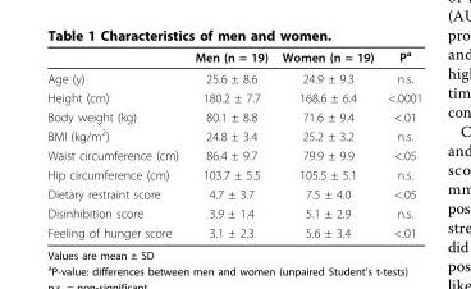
<table><thead><tr><td></td><td>Men (n = 19)</td><td>Women (n = 19)</td><td>P<sup>a</sup></td></tr></thead><tbody><tr><td>Age (y)</td><td>25.6 ± 8.6</td><td>24.9 ± 9.3</td><td>n.s.</td></tr><tr><td>Height (cm)</td><td>180.2 ± 7.7</td><td>168.6 ± 6.4</td><td>&lt;.0001</td></tr><tr><td>Body weight (kg)</td><td>80.1 ± 8.8</td><td>71.6 ± 9.4</td><td>&lt;.01</td></tr><tr><td>BMI (kg/m<sup>2</sup>)</td><td>24.8 ± 3.4</td><td>25.2 ± 3.2</td><td>n.s.</td></tr><tr><td>Waist circumference (cm)</td><td>86.4 ± 9.7</td><td>79.9 ± 9.9</td><td>&lt;.05</td></tr><tr><td>Hip circumference (cm)</td><td>103.7 ± 5.5</td><td>105.5 ± 5.1</td><td>n.s.</td></tr><tr><td>Dietary restraint score</td><td>4.7 ± 3.7</td><td>7.5 ± 4.0</td><td>&lt;.05</td></tr><tr><td>Disinhibition score</td><td>3.9 ± 1.4</td><td>5.1 ± 2.9</td><td>n.s.</td></tr><tr><td>Feeling of hunger score</td><td>3.1 ± 2.3</td><td>5.6 ± 3.4</td><td>&lt;.01</td></tr></tbody></table>